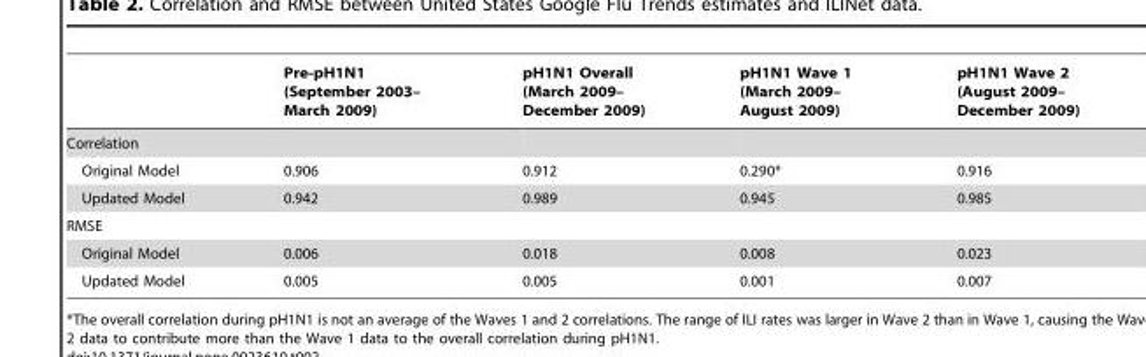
<table><thead><tr><td></td><td>Pre-pH1N1 (September 2003– March 2009)</td><td>pH1N1 Overall (March 2009– December 2009)</td><td>pH1N1 Wave 1 (March 2009– August 2009)</td><td>pH1N1 Wave 2 (August 2009– December 2009)</td></tr></thead><tbody><tr><td colspan="5">Correlation</td></tr><tr><td>Original Model</td><td>0.906</td><td>0.912</td><td>0.290*</td><td>0.916</td></tr><tr><td>Updated Model</td><td>0.942</td><td>0.989</td><td>0.945</td><td>0.985</td></tr><tr><td colspan="5">RMSE</td></tr><tr><td>Original Model</td><td>0.006</td><td>0.018</td><td>0.008</td><td>0.023</td></tr><tr><td>Updated Model</td><td>0.005</td><td>0.005</td><td>0.001</td><td>0.007</td></tr></tbody></table>